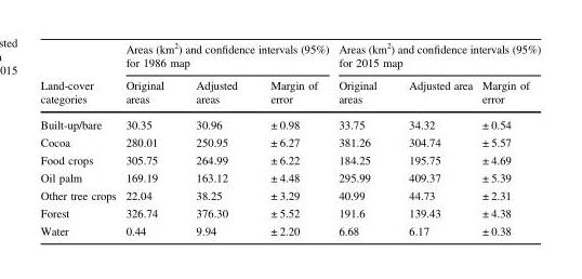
<table><thead><tr><td rowspan="2">Land-cover categories</td><td colspan="3">Areas (km<sup>2</sup>) and confidence intervals (95%) for 1986 map</td><td colspan="3">Areas (km<sup>2</sup>) and confidence intervals (95%) for 2015 map</td></tr><tr><td>Original areas</td><td>Adjusted areas</td><td>Margin of error</td><td>Original areas</td><td>Adjusted area</td><td>Margin of error</td></tr></thead><tbody><tr><td>Built-up/bare</td><td>30.35</td><td>30.96</td><td>± 0.98</td><td>33.75</td><td>34.32</td><td>± 0.54</td></tr><tr><td>Cocoa</td><td>280.01</td><td>250.95</td><td>± 6.27</td><td>381.26</td><td>304.74</td><td>± 5.57</td></tr><tr><td>Food crops</td><td>305.75</td><td>264.99</td><td>± 6.22</td><td>184.25</td><td>195.75</td><td>± 4.69</td></tr><tr><td>Oil palm</td><td>169.19</td><td>163.12</td><td>± 4.48</td><td>295.99</td><td>409.37</td><td>± 5.39</td></tr><tr><td>Other tree crops</td><td>22.04</td><td>38.25</td><td>± 3.29</td><td>40.99</td><td>44.73</td><td>± 2.31</td></tr><tr><td>Forest</td><td>326.74</td><td>376.30</td><td>± 5.52</td><td>191.6</td><td>139.43</td><td>± 4.38</td></tr><tr><td>Water</td><td>0.44</td><td>9.94</td><td>± 2.20</td><td>6.68</td><td>6.17</td><td>± 0.38</td></tr></tbody></table>